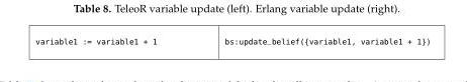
<table><tbody><tr><td>variable1 := variable1 + 1</td><td>bs:update_belief({variable1, variable1 + 1})</td></tr></tbody></table>